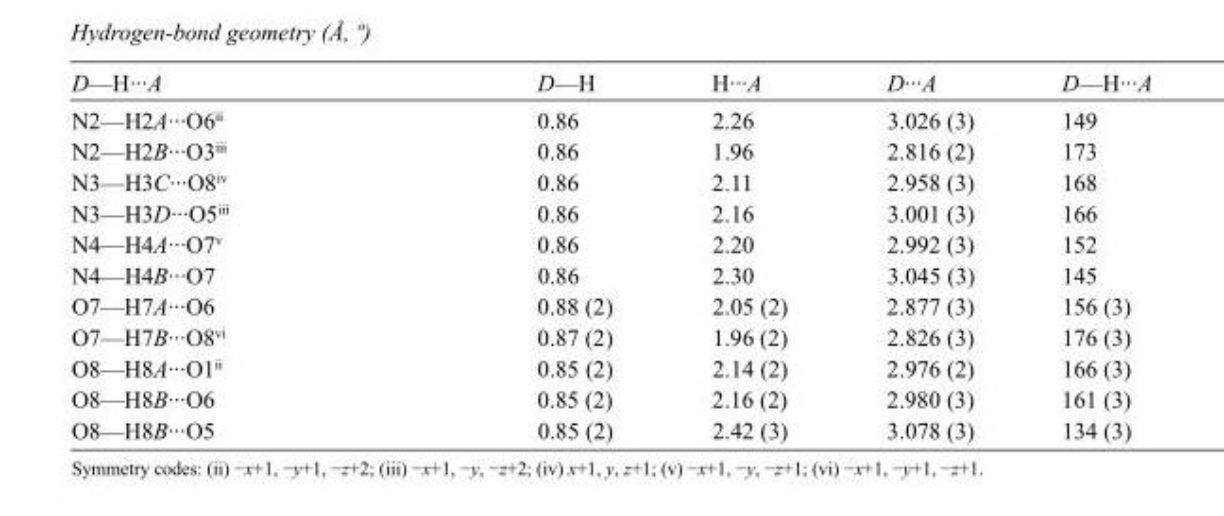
<table><tbody><tr><td>D—H···A</td><td>D—H</td><td>H···A</td><td>D···A</td><td>D—H···A</td></tr><tr><td>N2—H2A···O6<sup>ii</sup></td><td>0.86</td><td>2.26</td><td>3.026 (3)</td><td>149</td></tr><tr><td>N2—H2B···O3<sup>iii</sup></td><td>0.86</td><td>1.96</td><td>2.816 (2)</td><td>173</td></tr><tr><td>N3—H3C···O8<sup>iv</sup></td><td>0.86</td><td>2.11</td><td>2.958 (3)</td><td>168</td></tr><tr><td>N3—H3D···O5<sup>iii</sup></td><td>0.86</td><td>2.16</td><td>3.001 (3)</td><td>166</td></tr><tr><td>N4—H4A···O7<sup>v</sup></td><td>0.86</td><td>2.20</td><td>2.992 (3)</td><td>152</td></tr><tr><td>N4—H4B···O7</td><td>0.86</td><td>2.30</td><td>3.045 (3)</td><td>145</td></tr><tr><td>O7—H7A···O6</td><td>0.88 (2)</td><td>2.05 (2)</td><td>2.877 (3)</td><td>156 (3)</td></tr><tr><td>O7—H7B···O8<sup>vi</sup></td><td>0.87 (2)</td><td>1.96 (2)</td><td>2.826 (3)</td><td>176 (3)</td></tr><tr><td>O8—H8A···O1<sup>ii</sup></td><td>0.85 (2)</td><td>2.14 (2)</td><td>2.976 (2)</td><td>166 (3)</td></tr><tr><td>O8—H8B···O6</td><td>0.85 (2)</td><td>2.16 (2)</td><td>2.980 (3)</td><td>161 (3)</td></tr><tr><td>O8—H8B···O5</td><td>0.85 (2)</td><td>2.42 (3)</td><td>3.078 (3)</td><td>134 (3)</td></tr></tbody></table>